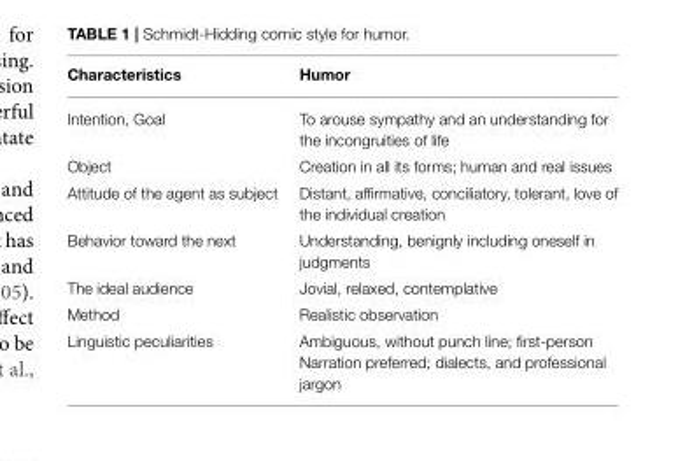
<table><thead><tr><td>Characteristics</td><td>Humor</td></tr></thead><tbody><tr><td>Intention, Goal</td><td>To arouse sympathy and an understanding for the incongruities of life</td></tr><tr><td>Object</td><td>Creation in all its forms; human and real issues</td></tr><tr><td>Attitude of the agent as subject</td><td>Distant, affirmative, conciliatory, tolerant, love of the individual creation</td></tr><tr><td>Behavior toward the next</td><td>Understanding, benignly including oneself in judgments</td></tr><tr><td>The ideal audience</td><td>Jovial, relaxed, contemplative</td></tr><tr><td>Method</td><td>Realistic observation</td></tr><tr><td>Linguistic peculiarities</td><td>Ambiguous, without punch line; first-person Narration preferred; dialects, and professional jargon</td></tr></tbody></table>